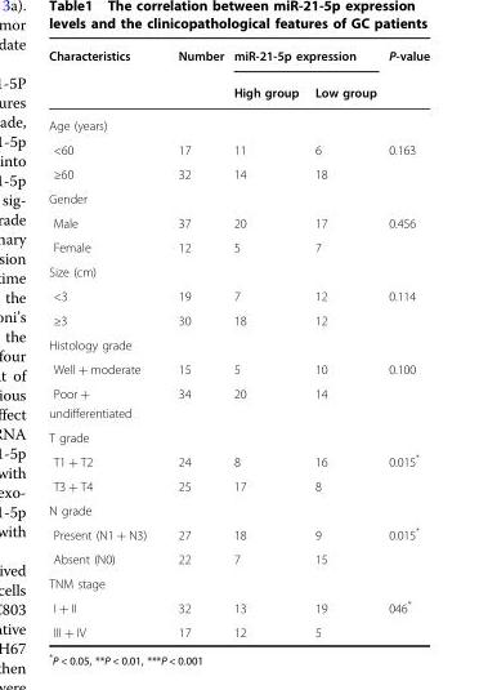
<table><thead><tr><td rowspan="2">Characteristics</td><td rowspan="2">Number</td><td colspan="2">miR-21-5p expression</td><td rowspan="2">P-value</td></tr><tr><td>High group</td><td>Low group</td></tr></thead><tbody><tr><td colspan="5">Age (years)</td></tr><tr><td>&lt;60</td><td>17</td><td>11</td><td>6</td><td>0.163</td></tr><tr><td>≥60</td><td>32</td><td>14</td><td>18</td><td></td></tr><tr><td colspan="5">Gender</td></tr><tr><td>Male</td><td>37</td><td>20</td><td>17</td><td>0.456</td></tr><tr><td>Female</td><td>12</td><td>5</td><td>7</td><td></td></tr><tr><td colspan="5">Size (cm)</td></tr><tr><td>&lt;3</td><td>19</td><td>7</td><td>12</td><td>0.114</td></tr><tr><td>≥3</td><td>30</td><td>18</td><td>12</td><td></td></tr><tr><td colspan="5">Histology grade</td></tr><tr><td>Well + moderate</td><td>15</td><td>5</td><td>10</td><td>0.100</td></tr><tr><td>Poor + undifferentiated</td><td>34</td><td>20</td><td>14</td><td></td></tr><tr><td colspan="5">T grade</td></tr><tr><td>T1 + T2</td><td>24</td><td>8</td><td>16</td><td>0.015*</td></tr><tr><td>T3 + T4</td><td>25</td><td>17</td><td>8</td><td></td></tr><tr><td colspan="5">N grade</td></tr><tr><td>Present (N1 + N3)</td><td>27</td><td>18</td><td>9</td><td>0.015*</td></tr><tr><td>Absent (N0)</td><td>22</td><td>7</td><td>15</td><td></td></tr><tr><td colspan="5">TNM stage</td></tr><tr><td>I + II</td><td>32</td><td>13</td><td>19</td><td>046*</td></tr><tr><td>III + IV</td><td>17</td><td>12</td><td>5</td><td></td></tr></tbody></table>